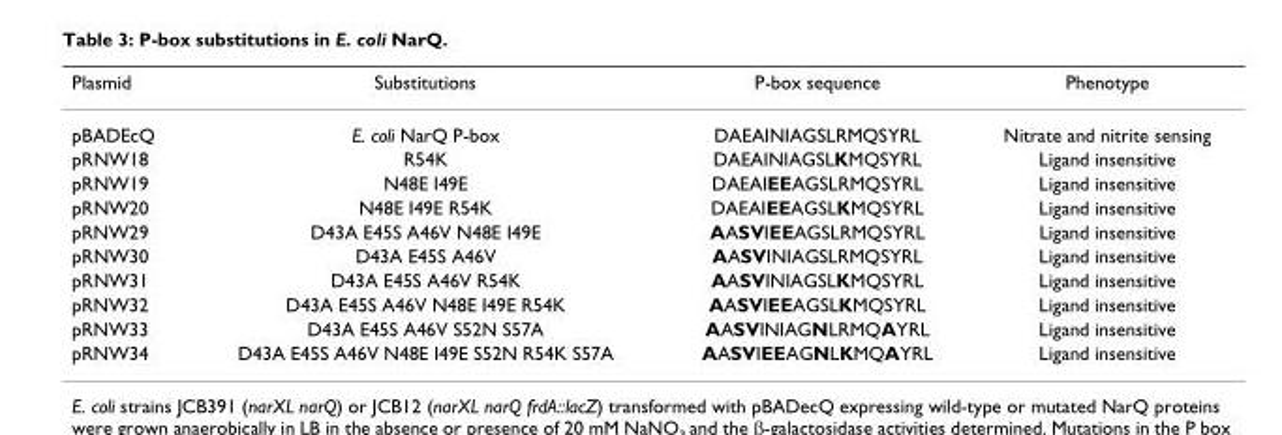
<table><thead><tr><td>Plasmid</td><td>Substitutions</td><td>P-box sequence</td><td>Phenotype</td></tr></thead><tbody><tr><td>pBADEcQ</td><td>E. coli NarQ P-box</td><td>DAEAINIAGSLRMQSYRL</td><td>Nitrate and nitrite sensing</td></tr><tr><td>pRNW18</td><td>R54K</td><td>DAEAINIAGSLKMQSYRL</td><td>Ligand insensitive</td></tr><tr><td>pRNW19</td><td>N48E I49E</td><td>DAEAIEEAGSLRMQSYRL</td><td>Ligand insensitive</td></tr><tr><td>pRNW20</td><td>N48E I49E R54K</td><td>DAEAIEEAGSLKMQSYRL</td><td>Ligand insensitive</td></tr><tr><td>pRNW29</td><td>D43A E45S A46V N48E I49E</td><td>AASVIEEAGSLRMQSYRL</td><td>Ligand insensitive</td></tr><tr><td>pRNW30</td><td>D43A E45S A46V</td><td>AASVINIAGSLRMQSYRL</td><td>Ligand insensitive</td></tr><tr><td>pRNW31</td><td>D43A E45S A46V R54K</td><td>AASVINIAGSLKMQSYRL</td><td>Ligand insensitive</td></tr><tr><td>pRNW32</td><td>D43A E45S A46V N48E I49E R54K</td><td>AASVIEEAGSLKMQSYRL</td><td>Ligand insensitive</td></tr><tr><td>pRNW33</td><td>D43A E45S A46V S52N S57A</td><td>AASVINIAGNLRMQAYRL</td><td>Ligand insensitive</td></tr><tr><td>pRNW34</td><td>D43A E45S A46V N48E I49E S52N R54K S57A</td><td>AASVIEEAGNLKMQAYRL</td><td>Ligand insensitive</td></tr></tbody></table>